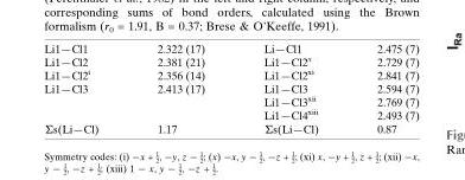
<table><tbody><tr><td>Li1—Cl1</td><td>2.322 (17)</td><td>Li—Cl1</td><td>2.475 (7)</td></tr><tr><td>Li1—Cl2</td><td>2.381 (21)</td><td>Li1—Cl2<sup>x</sup></td><td>2.729 (7)</td></tr><tr><td>Li1—Cl2<sup>i</sup></td><td>2.356 (14)</td><td>Li1—Cl2<sup>xi</sup></td><td>2.841 (7)</td></tr><tr><td rowspan="3">Li1—Cl3</td><td>2.413 (17)</td><td>Li1—Cl3</td><td>2.594 (7)</td></tr><tr><td></td><td>Li1—Cl3<sup>xii</sup></td><td>2.769 (7)</td></tr><tr><td></td><td>Li1—Cl4<sup>xiii</sup></td><td>2.493 (7)</td></tr><tr><td>Σs(Li—Cl)</td><td>1.17</td><td>Σs(Li—Cl)</td><td>0.87</td></tr></tbody></table>